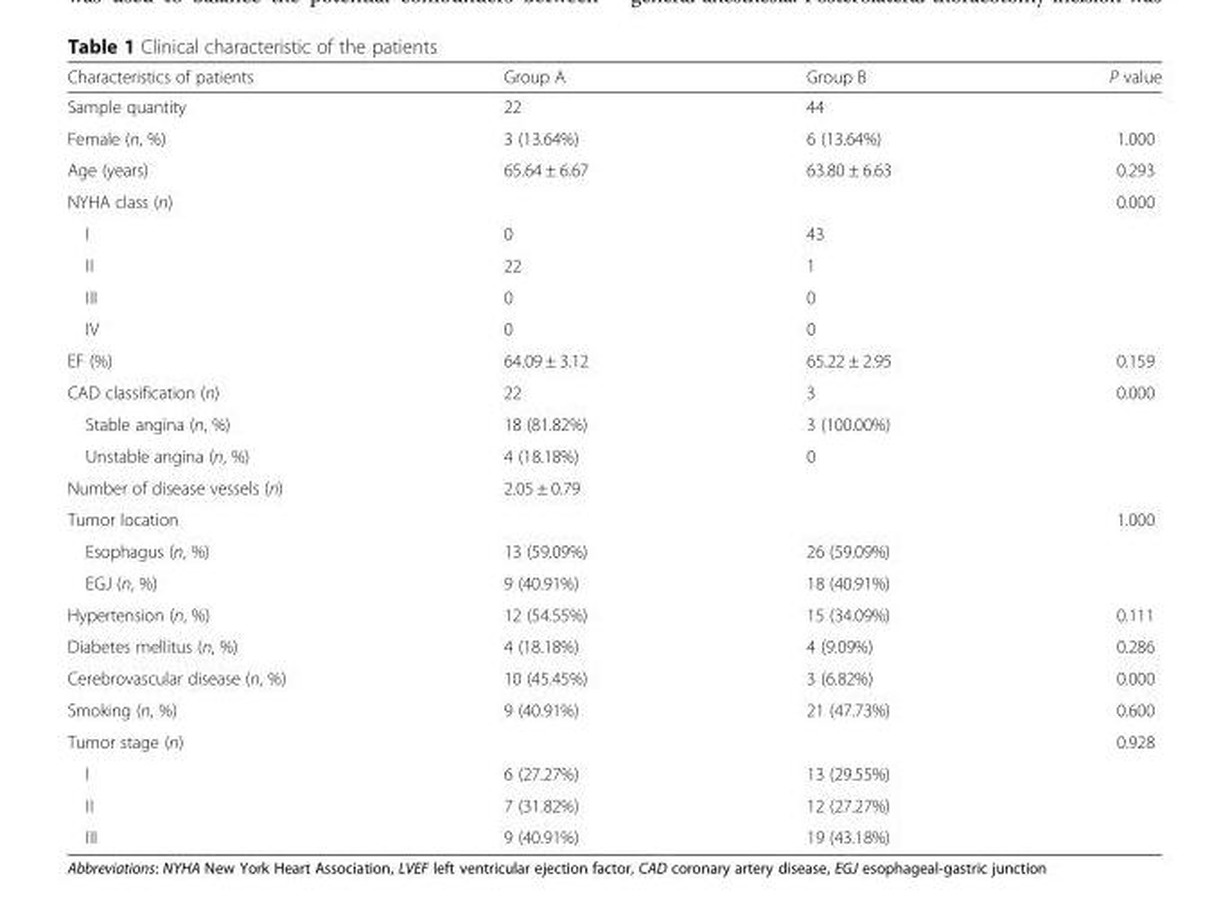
<table><thead><tr><td>Characteristics of patients</td><td>Group A</td><td>Group B</td><td>P value</td></tr></thead><tbody><tr><td>Sample quantity</td><td>22</td><td>44</td><td></td></tr><tr><td>Female (n, %)</td><td>3 (13.64%)</td><td>6 (13.64%)</td><td>1.000</td></tr><tr><td>Age (years)</td><td>65.64 ± 6.67</td><td>63.80 ± 6.63</td><td>0.293</td></tr><tr><td colspan="3">NYHA class (n)</td><td>0.000</td></tr><tr><td>I</td><td>0</td><td>43</td><td></td></tr><tr><td>II</td><td>22</td><td>1</td><td></td></tr><tr><td>III</td><td>0</td><td>0</td><td></td></tr><tr><td>IV</td><td>0</td><td>0</td><td></td></tr><tr><td>EF (%)</td><td>64.09 ± 3.12</td><td>65.22 ± 2.95</td><td>0.159</td></tr><tr><td>CAD classification (n)</td><td>22</td><td>3</td><td>0.000</td></tr><tr><td>Stable angina (n, %)</td><td>18 (81.82%)</td><td>3 (100.00%)</td><td></td></tr><tr><td>Unstable angina (n, %)</td><td>4 (18.18%)</td><td>0</td><td></td></tr><tr><td>Number of disease vessels (n)</td><td>2.05 ± 0.79</td><td></td><td></td></tr><tr><td colspan="3">Tumor location</td><td>1.000</td></tr><tr><td>Esophagus (n, %)</td><td>13 (59.09%)</td><td>26 (59.09%)</td><td></td></tr><tr><td>EGJ (n, %)</td><td>9 (40.91%)</td><td>18 (40.91%)</td><td></td></tr><tr><td>Hypertension (n, %)</td><td>12 (54.55%)</td><td>15 (34.09%)</td><td>0.111</td></tr><tr><td>Diabetes mellitus (n, %)</td><td>4 (18.18%)</td><td>4 (9.09%)</td><td>0.286</td></tr><tr><td>Cerebrovascular disease (n, %)</td><td>10 (45.45%)</td><td>3 (6.82%)</td><td>0.000</td></tr><tr><td>Smoking (n, %)</td><td>9 (40.91%)</td><td>21 (47.73%)</td><td>0.600</td></tr><tr><td colspan="3">Tumor stage (n)</td><td>0.928</td></tr><tr><td>I</td><td>6 (27.27%)</td><td>13 (29.55%)</td><td></td></tr><tr><td>II</td><td>7 (31.82%)</td><td>12 (27.27%)</td><td></td></tr><tr><td>III</td><td>9 (40.91%)</td><td>19 (43.18%)</td><td></td></tr></tbody></table>